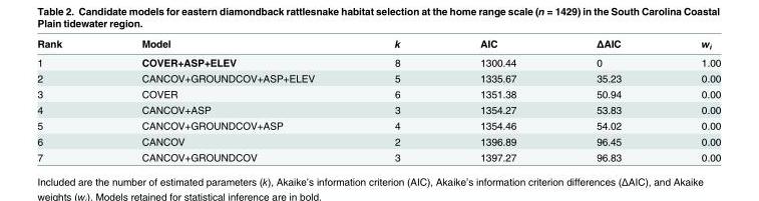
<table><thead><tr><td>Rank</td><td>Model</td><td>k</td><td>AIC</td><td>ΔAIC</td><td>w<sub>i</sub></td></tr></thead><tbody><tr><td>1</td><td>COVER+ASP+ELEV</td><td>8</td><td>1300.44</td><td>0</td><td>1.00</td></tr><tr><td>2</td><td>CANCOV+GROUNDCOV+ASP+ELEV</td><td>5</td><td>1335.67</td><td>35.23</td><td>0.00</td></tr><tr><td>3</td><td>COVER</td><td>6</td><td>1351.38</td><td>50.94</td><td>0.00</td></tr><tr><td>4</td><td>CANCOV+ASP</td><td>3</td><td>1354.27</td><td>53.83</td><td>0.00</td></tr><tr><td>5</td><td>CANCOV+GROUNDCOV+ASP</td><td>4</td><td>1354.46</td><td>54.02</td><td>0.00</td></tr><tr><td>6</td><td>CANCOV</td><td>2</td><td>1396.89</td><td>96.45</td><td>0.00</td></tr><tr><td>7</td><td>CANCOV+GROUNDCOV</td><td>3</td><td>1397.27</td><td>96.83</td><td>0.00</td></tr></tbody></table>